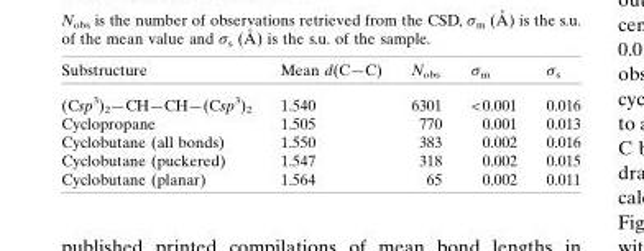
<table><thead><tr><td>Substructure</td><td>Mean d(C—C)</td><td>N<sub>obs</sub></td><td>σ<sub>m</sub></td><td>σ<sub>s</sub></td></tr></thead><tbody><tr><td>(Csp<sup>3</sup>)<sub>2</sub>—CH—CH—(Csp<sup>3</sup>)<sub>2</sub></td><td>1.540</td><td>6301</td><td>&lt;0.001</td><td>0.016</td></tr><tr><td>Cyclopropane</td><td>1.505</td><td>770</td><td>0.001</td><td>0.013</td></tr><tr><td>Cyclobutane (all bonds)</td><td>1.550</td><td>383</td><td>0.002</td><td>0.016</td></tr><tr><td>Cyclobutane (puckered)</td><td>1.547</td><td>318</td><td>0.002</td><td>0.015</td></tr><tr><td>Cyclobutane (planar)</td><td>1.564</td><td>65</td><td>0.002</td><td>0.011</td></tr></tbody></table>